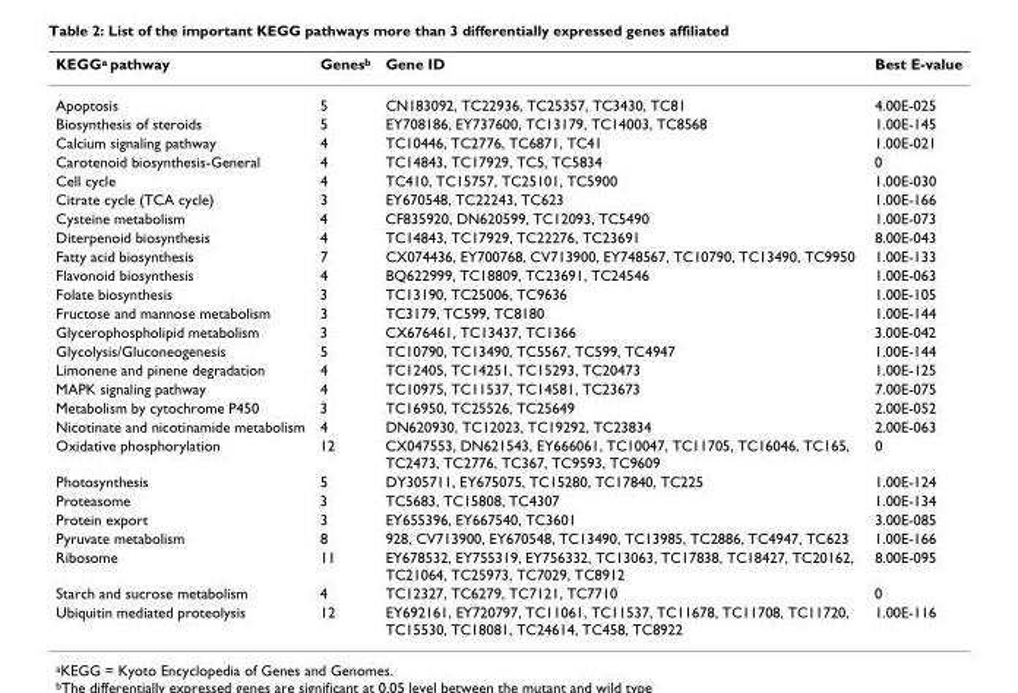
<table><thead><tr><td>KEGG<sup>a</sup> pathway</td><td>Genes<sup>b</sup></td><td>Gene ID</td><td>Best E-value</td></tr></thead><tbody><tr><td>Apoptosis</td><td>5</td><td>CN183092, TC22936, TC25357, TC3430, TC81</td><td>4.00E-025</td></tr><tr><td>Biosynthesis of steroids</td><td>5</td><td>EY708186, EY737600, TC13179, TC14003, TC8568</td><td>1.00E-145</td></tr><tr><td>Calcium signaling pathway</td><td>4</td><td>TC10446, TC2776, TC6871, TC41</td><td>1.00E-021</td></tr><tr><td>Carotenoid biosynthesis-General</td><td>4</td><td>TC14843, TC17929, TC5, TC5834</td><td>0</td></tr><tr><td>Cell cycle</td><td>4</td><td>TC410, TC15757, TC25101, TC5900</td><td>1.00E-030</td></tr><tr><td>Citrate cycle (TCA cycle)</td><td>3</td><td>EY670548, TC22243, TC623</td><td>1.00E-166</td></tr><tr><td>Cysteine metabolism</td><td>4</td><td>CF835920, DN620599, TC12093, TC5490</td><td>1.00E-073</td></tr><tr><td>Diterpenoid biosynthesis</td><td>4</td><td>TC14843, TC17929, TC22276, TC23691</td><td>8.00E-043</td></tr><tr><td>Fatty acid biosynthesis</td><td>7</td><td>CX074436, EY700768, CV713900, EY748567, TC10790, TC13490, TC9950</td><td>1.00E-133</td></tr><tr><td>Flavonoid biosynthesis</td><td>4</td><td>BQ622999, TC18809, TC23691, TC24546</td><td>1.00E-063</td></tr><tr><td>Folate biosynthesis</td><td>3</td><td>TC13190, TC25006, TC9636</td><td>1.00E-105</td></tr><tr><td>Fructose and mannose metabolism</td><td>3</td><td>TC3179, TC599, TC8180</td><td>1.00E-144</td></tr><tr><td>Glycerophospholipid metabolism</td><td>3</td><td>CX676461, TC13437, TC1366</td><td>3.00E-042</td></tr><tr><td>Glycolysis/Gluconeogenesis</td><td>5</td><td>TC10790, TC13490, TC5567, TC599, TC4947</td><td>1.00E-144</td></tr><tr><td>Limonene and pinene degradation</td><td>4</td><td>TC12405, TC14251, TC15293, TC20473</td><td>1.00E-125</td></tr><tr><td>MAPK signaling pathway</td><td>4</td><td>TC10975, TC11537, TC14581, TC23673</td><td>7.00E-075</td></tr><tr><td>Metabolism by cytochrome P450</td><td>3</td><td>TC16950, TC25526, TC25649</td><td>2.00E-052</td></tr><tr><td>Nicotinate and nicotinamide metabolism</td><td>4</td><td>DN620930, TC12023, TC19292, TC23834</td><td>2.00E-063</td></tr><tr><td>Oxidative phosphorylation</td><td>12</td><td>CX047553, DN621543, EY666061, TC10047, TC11705, TC16046, TC165, TC2473, TC2776, TC367, TC9593, TC9609</td><td>0</td></tr><tr><td>Photosynthesis</td><td>5</td><td>DY305711, EY675075, TC15280, TC17840, TC225</td><td>1.00E-124</td></tr><tr><td>Proteasome</td><td>3</td><td>TC5683, TC15808, TC4307</td><td>1.00E-134</td></tr><tr><td>Protein export</td><td>3</td><td>EY655396, EY667540, TC3601</td><td>3.00E-085</td></tr><tr><td>Pyruvate metabolism</td><td>8</td><td>928, CV713900, EY670548, TC13490, TC13985, TC2886, TC4947, TC623</td><td>1.00E-166</td></tr><tr><td>Ribosome</td><td>11</td><td>EY678532, EY755319, EY756332, TC13063, TC17838, TC18427, TC20162, TC21064, TC25973, TC7029, TC8912</td><td>8.00E-095</td></tr><tr><td>Starch and sucrose metabolism</td><td>4</td><td>TC12327, TC6279, TC7121, TC7710</td><td>0</td></tr><tr><td>Ubiquitin mediated proteolysis</td><td>12</td><td>EY692161, EY720797, TC11061, TC11537, TC11678, TC11708, TC11720, TC15530, TC18081, TC24614, TC458, TC8922</td><td>1.00E-116</td></tr></tbody></table>